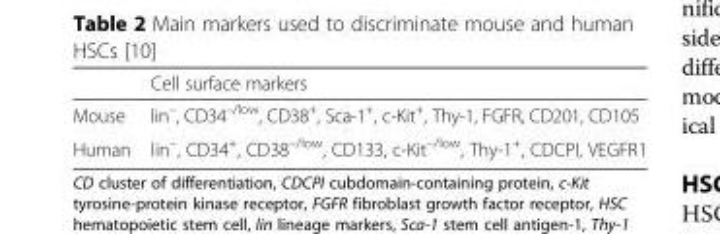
<table><thead><tr><td></td><td>Cell surface markers</td></tr></thead><tbody><tr><td>Mouse</td><td>lin<sup>–</sup>, CD34<sup>–/low</sup>, CD38<sup>+</sup>, Sca-1<sup>+</sup>, c-Kit<sup>+</sup>, Thy-1, FGFR, CD201, CD105</td></tr><tr><td>Human</td><td>lin<sup>–</sup>, CD34<sup>+</sup>, CD38<sup>–/low</sup>, CD133, c-Kit<sup>–/low</sup>, Thy-1<sup>+</sup>, CDCPI, VEGFR1</td></tr></tbody></table>